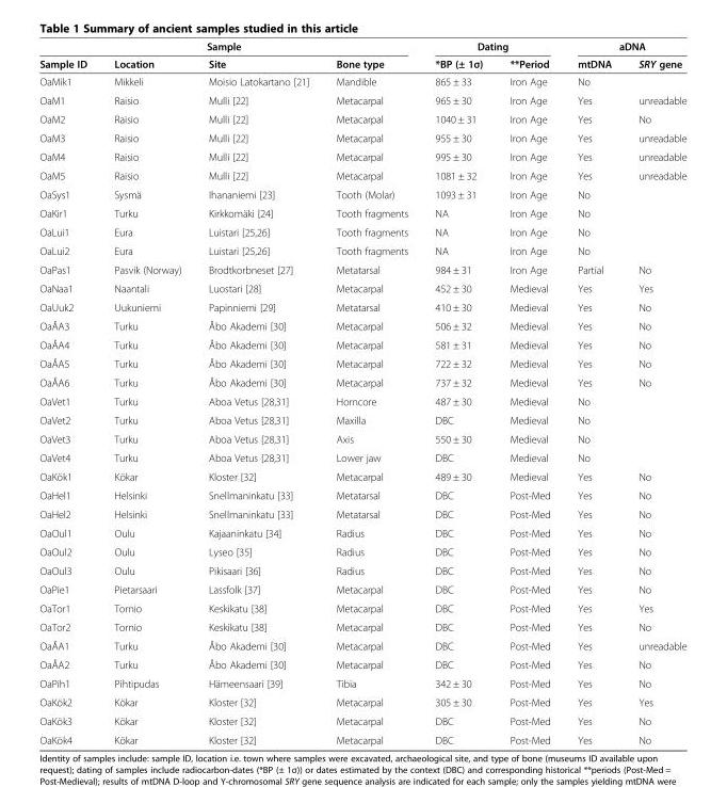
<table><thead><tr><td colspan="4">Sample</td><td colspan="2">Dating</td><td colspan="2">aDNA</td></tr><tr><td>Sample ID</td><td>Location</td><td>Site</td><td>Bone type</td><td>*BP (± 1σ)</td><td>**Period</td><td>mtDNA</td><td>SRY gene</td></tr></thead><tbody><tr><td>OaMik1</td><td>Mikkeli</td><td>Moisio Latokartano [21]</td><td>Mandible</td><td>865 ± 33</td><td>Iron Age</td><td>No</td><td></td></tr><tr><td>OaM1</td><td>Raisio</td><td>Mulli [22]</td><td>Metacarpal</td><td>965 ± 30</td><td>Iron Age</td><td>Yes</td><td>unreadable</td></tr><tr><td>OaM2</td><td>Raisio</td><td>Mulli [22]</td><td>Metacarpal</td><td>1040 ± 31</td><td>Iron Age</td><td>Yes</td><td>No</td></tr><tr><td>OaM3</td><td>Raisio</td><td>Mulli [22]</td><td>Metacarpal</td><td>955 ± 30</td><td>Iron Age</td><td>Yes</td><td>unreadable</td></tr><tr><td>OaM4</td><td>Raisio</td><td>Mulli [22]</td><td>Metacarpal</td><td>995 ± 30</td><td>Iron Age</td><td>Yes</td><td>unreadable</td></tr><tr><td>OaM5</td><td>Raisio</td><td>Mulli [22]</td><td>Metacarpal</td><td>1081 ± 32</td><td>Iron Age</td><td>Yes</td><td>unreadable</td></tr><tr><td>OaSys1</td><td>Sysmä</td><td>Ihananiemi [23]</td><td>Tooth (Molar)</td><td>1093 ± 31</td><td>Iron Age</td><td>No</td><td></td></tr><tr><td>OaKir1</td><td>Turku</td><td>Kirkkomäki [24]</td><td>Tooth fragments</td><td>NA</td><td>Iron Age</td><td>No</td><td></td></tr><tr><td>OaLui1</td><td>Eura</td><td>Luistari [25,26]</td><td>Tooth fragments</td><td>NA</td><td>Iron Age</td><td>No</td><td></td></tr><tr><td>OaLui2</td><td>Eura</td><td>Luistari [25,26]</td><td>Tooth fragments</td><td>NA</td><td>Iron Age</td><td>No</td><td></td></tr><tr><td>OaPas1</td><td>Pasvik (Norway)</td><td>Brodtkorbneset [27]</td><td>Metatarsal</td><td>984 ± 31</td><td>Iron Age</td><td>Partial</td><td>No</td></tr><tr><td>OaNaa1</td><td>Naantali</td><td>Luostari [28]</td><td>Metacarpal</td><td>452 ± 30</td><td>Medieval</td><td>Yes</td><td>Yes</td></tr><tr><td>OaUuk2</td><td>Uukuniemi</td><td>Papinniemi [29]</td><td>Metatarsal</td><td>410 ± 30</td><td>Medieval</td><td>Yes</td><td>No</td></tr><tr><td>OaÅA3</td><td>Turku</td><td>Åbo Akademi [30]</td><td>Metacarpal</td><td>506 ± 32</td><td>Medieval</td><td>Yes</td><td>No</td></tr><tr><td>OaÅA4</td><td>Turku</td><td>Åbo Akademi [30]</td><td>Metacarpal</td><td>581 ± 31</td><td>Medieval</td><td>Yes</td><td>No</td></tr><tr><td>OaÅA5</td><td>Turku</td><td>Åbo Akademi [30]</td><td>Metacarpal</td><td>722 ± 32</td><td>Medieval</td><td>Yes</td><td>No</td></tr><tr><td>OaÅA6</td><td>Turku</td><td>Åbo Akademi [30]</td><td>Metacarpal</td><td>737 ± 32</td><td>Medieval</td><td>Yes</td><td>No</td></tr><tr><td>OaVet1</td><td>Turku</td><td>Aboa Vetus [28,31]</td><td>Horncore</td><td>487 ± 30</td><td>Medieval</td><td>No</td><td></td></tr><tr><td>OaVet2</td><td>Turku</td><td>Aboa Vetus [28,31]</td><td>Maxilla</td><td>DBC</td><td>Medieval</td><td>No</td><td></td></tr><tr><td>OaVet3</td><td>Turku</td><td>Aboa Vetus [28,31]</td><td>Axis</td><td>550 ± 30</td><td>Medieval</td><td>No</td><td></td></tr><tr><td>OaVet4</td><td>Turku</td><td>Aboa Vetus [28,31]</td><td>Lower jaw</td><td>DBC</td><td>Medieval</td><td>No</td><td></td></tr><tr><td>OaKök1</td><td>Kökar</td><td>Kloster [32]</td><td>Metacarpal</td><td>489 ± 30</td><td>Medieval</td><td>Yes</td><td>No</td></tr><tr><td>OaHel1</td><td>Helsinki</td><td>Snellmaninkatu [33]</td><td>Metatarsal</td><td>DBC</td><td>Post-Med</td><td>Yes</td><td>No</td></tr><tr><td>OaHel2</td><td>Helsinki</td><td>Snellmaninkatu [33]</td><td>Metatarsal</td><td>DBC</td><td>Post-Med</td><td>Yes</td><td>No</td></tr><tr><td>OaOul1</td><td>Oulu</td><td>Kajaaninkatu [34]</td><td>Radius</td><td>DBC</td><td>Post-Med</td><td>Yes</td><td>No</td></tr><tr><td>OaOul2</td><td>Oulu</td><td>Lyseo [35]</td><td>Radius</td><td>DBC</td><td>Post-Med</td><td>Yes</td><td>No</td></tr><tr><td>OaOul3</td><td>Oulu</td><td>Pikisaari [36]</td><td>Radius</td><td>DBC</td><td>Post-Med</td><td>Yes</td><td>No</td></tr><tr><td>OaPie1</td><td>Pietarsaari</td><td>Lassfolk [37]</td><td>Metacarpal</td><td>DBC</td><td>Post-Med</td><td>Yes</td><td>No</td></tr><tr><td>OaTor1</td><td>Tornio</td><td>Keskikatu [38]</td><td>Metacarpal</td><td>DBC</td><td>Post-Med</td><td>Yes</td><td>Yes</td></tr><tr><td>OaTor2</td><td>Tornio</td><td>Keskikatu [38]</td><td>Metacarpal</td><td>DBC</td><td>Post-Med</td><td>Yes</td><td>No</td></tr><tr><td>OaÅA1</td><td>Turku</td><td>Åbo Akademi [30]</td><td>Metacarpal</td><td>DBC</td><td>Post-Med</td><td>Yes</td><td>unreadable</td></tr><tr><td>OaÅA2</td><td>Turku</td><td>Åbo Akademi [30]</td><td>Metacarpal</td><td>DBC</td><td>Post-Med</td><td>Yes</td><td>No</td></tr><tr><td>OaPih1</td><td>Pihtipudas</td><td>Hämeensaari [39]</td><td>Tibia</td><td>342 ± 30</td><td>Post-Med</td><td>Yes</td><td>No</td></tr><tr><td>OaKök2</td><td>Kökar</td><td>Kloster [32]</td><td>Metacarpal</td><td>305 ± 30</td><td>Post-Med</td><td>Yes</td><td>Yes</td></tr><tr><td>OaKök3</td><td>Kökar</td><td>Kloster [32]</td><td>Metacarpal</td><td>DBC</td><td>Post-Med</td><td>Yes</td><td>No</td></tr><tr><td>OaKök4</td><td>Kökar</td><td>Kloster [32]</td><td>Metacarpal</td><td>DBC</td><td>Post-Med</td><td>Yes</td><td>No</td></tr></tbody></table>